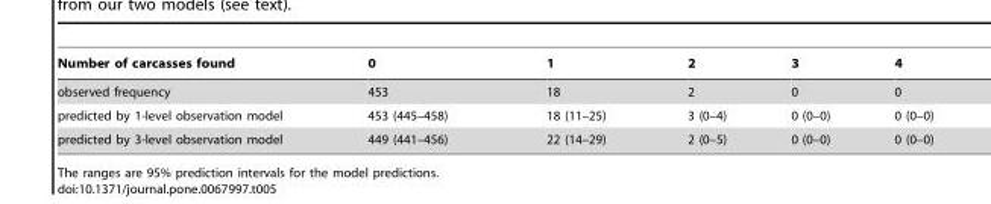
<table><thead><tr><td>Number of carcasses found</td><td>0</td><td>1</td><td>2</td><td>3</td><td>4</td></tr></thead><tbody><tr><td>observed frequency</td><td>453</td><td>18</td><td>2</td><td>0</td><td>0</td></tr><tr><td>predicted by 1-level observation model</td><td>453 (445–458)</td><td>18 (11–25)</td><td>3 (0–4)</td><td>0 (0–0)</td><td>0 (0–0)</td></tr><tr><td>predicted by 3-level observation model</td><td>449 (441–456)</td><td>22 (14–29)</td><td>2 (0–5)</td><td>0 (0–0)</td><td>0 (0–0)</td></tr></tbody></table>